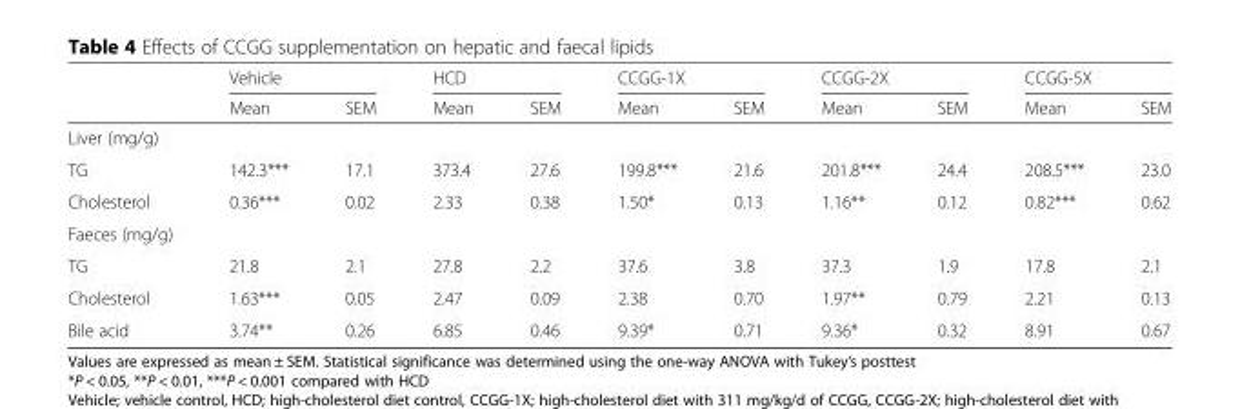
<table><thead><tr><td rowspan="2"></td><td colspan="2">Vehicle</td><td colspan="2">HCD</td><td colspan="2">CCGG-1X</td><td colspan="2">CCGG-2X</td><td colspan="2">CCGG-5X</td></tr><tr><td>Mean</td><td>SEM</td><td>Mean</td><td>SEM</td><td>Mean</td><td>SEM</td><td>Mean</td><td>SEM</td><td>Mean</td><td>SEM</td></tr></thead><tbody><tr><td colspan="11">Liver (mg/g)</td></tr><tr><td>TG</td><td>142.3***</td><td>17.1</td><td>373.4</td><td>27.6</td><td>199.8***</td><td>21.6</td><td>201.8***</td><td>24.4</td><td>208.5***</td><td>23.0</td></tr><tr><td>Cholesterol</td><td>0.36***</td><td>0.02</td><td>2.33</td><td>0.38</td><td>1.50*</td><td>0.13</td><td>1.16**</td><td>0.12</td><td>0.82***</td><td>0.62</td></tr><tr><td colspan="11">Faeces (mg/g)</td></tr><tr><td>TG</td><td>21.8</td><td>2.1</td><td>27.8</td><td>2.2</td><td>37.6</td><td>3.8</td><td>37.3</td><td>1.9</td><td>17.8</td><td>2.1</td></tr><tr><td>Cholesterol</td><td>1.63***</td><td>0.05</td><td>2.47</td><td>0.09</td><td>2.38</td><td>0.70</td><td>1.97**</td><td>0.79</td><td>2.21</td><td>0.13</td></tr><tr><td>Bile acid</td><td>3.74**</td><td>0.26</td><td>6.85</td><td>0.46</td><td>9.39*</td><td>0.71</td><td>9.36*</td><td>0.32</td><td>8.91</td><td>0.67</td></tr></tbody></table>